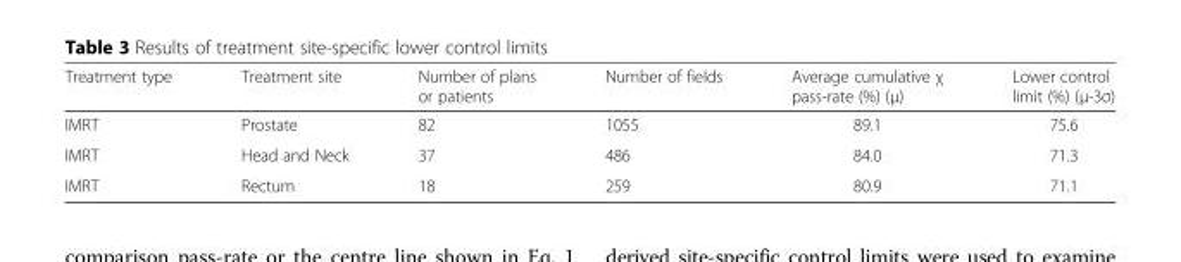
<table><thead><tr><td>Treatment type</td><td>Treatment site</td><td>Number of plans or patients</td><td>Number of fields</td><td>Average cumulative χ pass-rate (%) (μ)</td><td>Lower control limit (%) (μ-3σ)</td></tr></thead><tbody><tr><td>IMRT</td><td>Prostate</td><td>82</td><td>1055</td><td>89.1</td><td>75.6</td></tr><tr><td>IMRT</td><td>Head and Neck</td><td>37</td><td>486</td><td>84.0</td><td>71.3</td></tr><tr><td>IMRT</td><td>Rectum</td><td>18</td><td>259</td><td>80.9</td><td>71.1</td></tr></tbody></table>